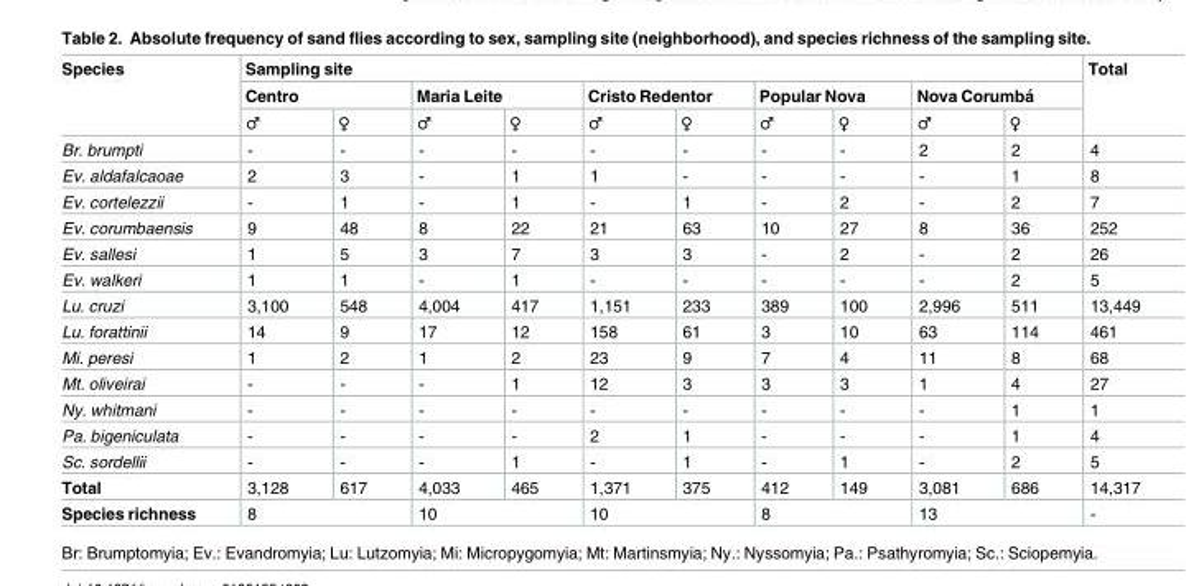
<table><thead><tr><td rowspan="3">Species</td><td colspan="10">Sampling site</td><td rowspan="3">Total</td></tr><tr><td colspan="2">Centro</td><td colspan="2">Maria Leite</td><td colspan="2">Cristo Redentor</td><td colspan="2">Popular Nova</td><td colspan="2">Nova Corumba´</td></tr><tr><td>♂</td><td>♀</td><td>♂</td><td>♀</td><td>♂</td><td>♀</td><td>♂</td><td>♀</td><td>♂</td><td>♀</td></tr></thead><tbody><tr><td>Br. brumpti</td><td>-</td><td>-</td><td>-</td><td>-</td><td>-</td><td>-</td><td>-</td><td>-</td><td>2</td><td>2</td><td>4</td></tr><tr><td>Ev. aldafalcaoae</td><td>2</td><td>3</td><td>-</td><td>1</td><td>1</td><td>-</td><td>-</td><td>-</td><td>-</td><td>1</td><td>8</td></tr><tr><td>Ev. cortelezzii</td><td>-</td><td>1</td><td>-</td><td>1</td><td>-</td><td>1</td><td>-</td><td>2</td><td>-</td><td>2</td><td>7</td></tr><tr><td>Ev. corumbaensis</td><td>9</td><td>48</td><td>8</td><td>22</td><td>21</td><td>63</td><td>10</td><td>27</td><td>8</td><td>36</td><td>252</td></tr><tr><td>Ev. sallesi</td><td>1</td><td>5</td><td>3</td><td>7</td><td>3</td><td>3</td><td>-</td><td>2</td><td>-</td><td>2</td><td>26</td></tr><tr><td>Ev. walkeri</td><td>1</td><td>1</td><td>-</td><td>1</td><td>-</td><td>-</td><td>-</td><td>-</td><td>-</td><td>2</td><td>5</td></tr><tr><td>Lu. cruzi</td><td>3,100</td><td>548</td><td>4,004</td><td>417</td><td>1,151</td><td>233</td><td>389</td><td>100</td><td>2,996</td><td>511</td><td>13,449</td></tr><tr><td>Lu. forattinii</td><td>14</td><td>9</td><td>17</td><td>12</td><td>158</td><td>61</td><td>3</td><td>10</td><td>63</td><td>114</td><td>461</td></tr><tr><td>Mi. peresi</td><td>1</td><td>2</td><td>1</td><td>2</td><td>23</td><td>9</td><td>7</td><td>4</td><td>11</td><td>8</td><td>68</td></tr><tr><td>Mt. oliveirai</td><td>-</td><td>-</td><td>-</td><td>1</td><td>12</td><td>3</td><td>3</td><td>3</td><td>1</td><td>4</td><td>27</td></tr><tr><td>Ny. whitmani</td><td>-</td><td>-</td><td>-</td><td>-</td><td>-</td><td>-</td><td>-</td><td>-</td><td>-</td><td>1</td><td>1</td></tr><tr><td>Pa. bigeniculata</td><td>-</td><td>-</td><td>-</td><td>-</td><td>2</td><td>1</td><td>-</td><td>-</td><td>-</td><td>1</td><td>4</td></tr><tr><td>Sc. sordellii</td><td>-</td><td>-</td><td>-</td><td>1</td><td>-</td><td>1</td><td>-</td><td>1</td><td>-</td><td>2</td><td>5</td></tr><tr><td>Total</td><td>3,128</td><td>617</td><td>4,033</td><td>465</td><td>1,371</td><td>375</td><td>412</td><td>149</td><td>3,081</td><td>686</td><td>14,317</td></tr><tr><td>Species richness</td><td colspan="2">8</td><td colspan="2">10</td><td colspan="2">10</td><td colspan="2">8</td><td colspan="2">13</td><td>-</td></tr></tbody></table>